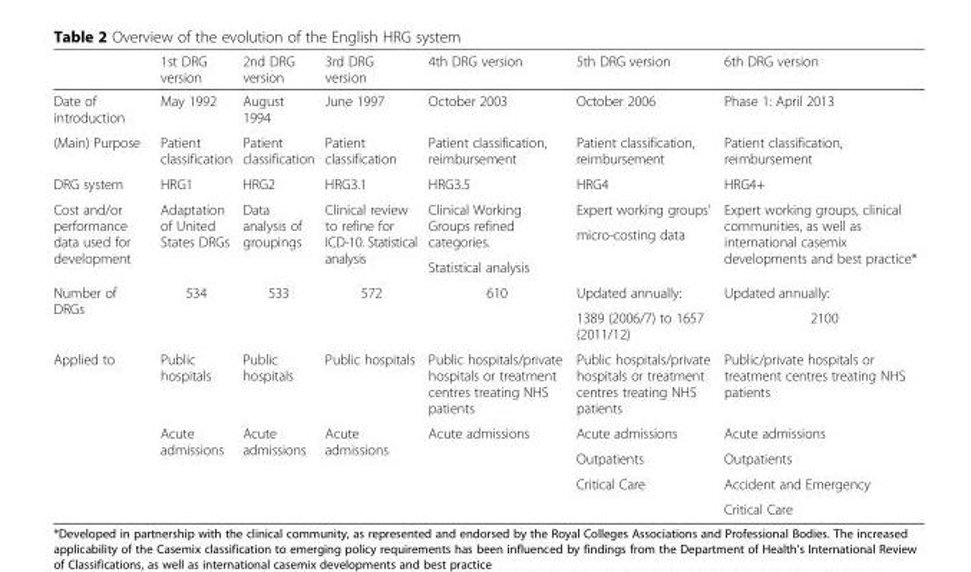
<table><thead><tr><td></td><td>1st DRG version</td><td>2nd DRG version</td><td>3rd DRG version</td><td>4th DRG version</td><td>5th DRG version</td><td>6th DRG version</td></tr></thead><tbody><tr><td>Date of introduction</td><td>May 1992</td><td>August 1994</td><td>June 1997</td><td>October 2003</td><td>October 2006</td><td>Phase 1: April 2013</td></tr><tr><td>(Main) Purpose</td><td>Patient classification</td><td>Patient classification</td><td>Patient classification</td><td>Patient classification, reimbursement</td><td>Patient classification, reimbursement</td><td>Patient classification, reimbursement</td></tr><tr><td>DRG system</td><td>HRG1</td><td>HRG2</td><td>HRG3.1</td><td>HRG3.5</td><td>HRG4</td><td>HRG4+</td></tr><tr><td rowspan="3">Cost and/or performance data used for development</td><td rowspan="3">Adaptation of United States DRGs</td><td rowspan="3">Data analysis of groupings</td><td rowspan="3">Clinical review to refine for ICD-10. Statistical analysis</td><td rowspan="2">Clinical Working Groups refined categories.</td><td>Expert working groups’</td><td rowspan="3">Expert working groups, clinical communities, as well as international casemix developments and best practice*</td></tr><tr><td rowspan="2">micro-costing data</td></tr><tr><td>Statistical analysis</td></tr><tr><td rowspan="2">Number of DRGs</td><td rowspan="2">534</td><td rowspan="2">533</td><td rowspan="2">572</td><td rowspan="2">610</td><td>Updated annually:</td><td>Updated annually:</td></tr><tr><td>1389 (2006/7) to 1657 (2011/12)</td><td>2100</td></tr><tr><td rowspan="5">Applied to</td><td>Public hospitals</td><td>Public hospitals</td><td>Public hospitals</td><td>Public hospitals/private hospitals or treatment centres treating NHS patients</td><td>Public hospitals/private hospitals or treatment centres treating NHS patients</td><td>Public/private hospitals or treatment centres treating NHS patients</td></tr><tr><td rowspan="4">Acute admissions</td><td rowspan="4">Acute admissions</td><td rowspan="4">Acute admissions</td><td rowspan="4">Acute admissions</td><td>Acute admissions</td><td>Acute admissions</td></tr><tr><td>Outpatients</td><td>Outpatients</td></tr><tr><td>Critical Care</td><td>Accident and Emergency</td></tr><tr><td></td><td>Critical Care</td></tr></tbody></table>